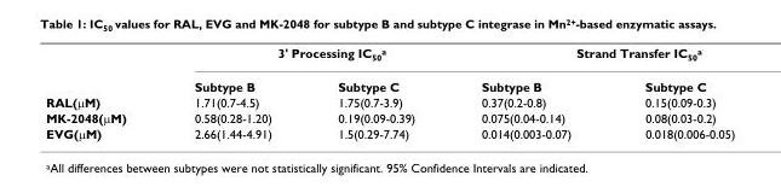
<table><thead><tr><td rowspan="2"></td><td colspan="2">3&#x27; Processing IC<sub>50</sub><sup>a</sup></td><td colspan="2">Strand Transfer IC<sub>50</sub><sup>a</sup></td></tr><tr><td>Subtype B</td><td>Subtype C</td><td>Subtype B</td><td>Subtype C</td></tr></thead><tbody><tr><td>RAL(μM)</td><td>1.71(0.7-4.5)</td><td>1.75(0.7-3.9)</td><td>0.37(0.2-0.8)</td><td>0.15(0.09-0.3)</td></tr><tr><td>MK-2048(μM)</td><td>0.58(0.28-1.20)</td><td>0.19(0.09-0.39)</td><td>0.075(0.04-0.14)</td><td>0.08(0.03-0.2)</td></tr><tr><td>EVG(μM)</td><td>2.66(1.44-4.91)</td><td>1.5(0.29-7.74)</td><td>0.014(0.003-0.07)</td><td>0.018(0.006-0.05)</td></tr></tbody></table>